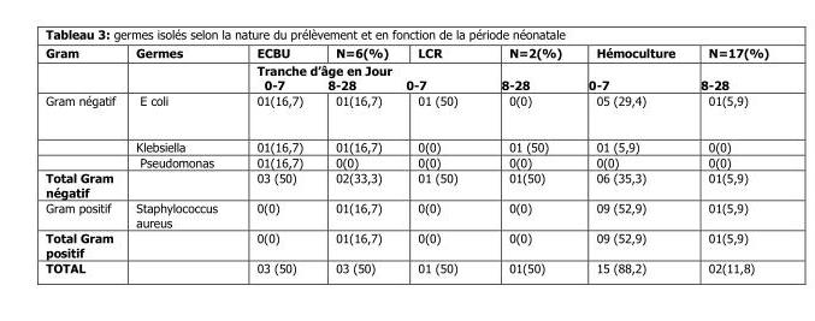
<table><thead><tr><td rowspan="2">Gram</td><td rowspan="2">Germes</td><td>ECBU</td><td>N=6(%)</td><td>LCR</td><td rowspan="2">N=2(%) 8-28</td><td rowspan="2">Hémoculture 0-7</td><td rowspan="2">N=17(%) 8-28</td></tr><tr><td colspan="3">Tranche d’âge en Jour 0-7 8-28 0-7</td></tr></thead><tbody><tr><td rowspan="3">Gram négatif</td><td>E coli</td><td>01(16,7)</td><td>01(16,7)</td><td>01 (50)</td><td>0(0)</td><td>05 (29,4)</td><td>01(5,9)</td></tr><tr><td>Klebsiella</td><td>01(16,7)</td><td>01(16,7)</td><td>0(0)</td><td>01 (50)</td><td>01 (5,9)</td><td>0(0)</td></tr><tr><td>Pseudomonas</td><td>01(16,7)</td><td>0(0)</td><td>0(0)</td><td>0(0)</td><td>0(0)</td><td>0(0)</td></tr><tr><td>Total Gram négatif</td><td></td><td>03 (50)</td><td>02(33,3)</td><td>01 (50)</td><td>01(50)</td><td>06 (35,3)</td><td>01(5,9)</td></tr><tr><td>Gram positif</td><td>Staphylococcus aureus</td><td>0(0)</td><td>01(16,7)</td><td>0(0)</td><td>0(0)</td><td>09 (52,9)</td><td>01(5,9)</td></tr><tr><td>Total Gram positif</td><td></td><td>0(0)</td><td>01(16,7)</td><td>0(0)</td><td>0(0)</td><td>09 (52,9)</td><td>01(5,9)</td></tr><tr><td>TOTAL</td><td></td><td>03 (50)</td><td>03 (50)</td><td>01 (50)</td><td>01(50)</td><td>15 (88,2)</td><td>02(11,8)</td></tr></tbody></table>